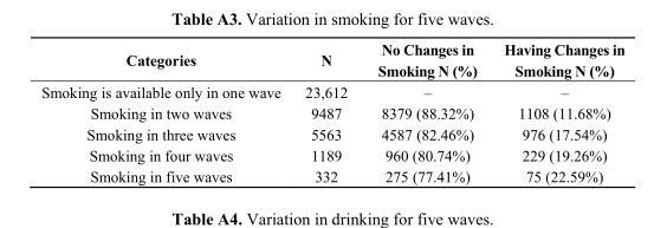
<table><thead><tr><td>Categories</td><td>N</td><td>No Changes in Smoking N (%)</td><td>Having Changes in Smoking N (%)</td></tr></thead><tbody><tr><td>Smoking is available only in one wave</td><td>23,612</td><td>–</td><td>–</td></tr><tr><td>Smoking in two waves</td><td>9487</td><td>8379 (88.32%)</td><td>1108 (11.68%)</td></tr><tr><td>Smoking in three waves</td><td>5563</td><td>4587 (82.46%)</td><td>976 (17.54%)</td></tr><tr><td>Smoking in four waves</td><td>1189</td><td>960 (80.74%)</td><td>229 (19.26%)</td></tr><tr><td>Smoking in five waves</td><td>332</td><td>275 (77.41%)</td><td>75 (22.59%)</td></tr></tbody></table>